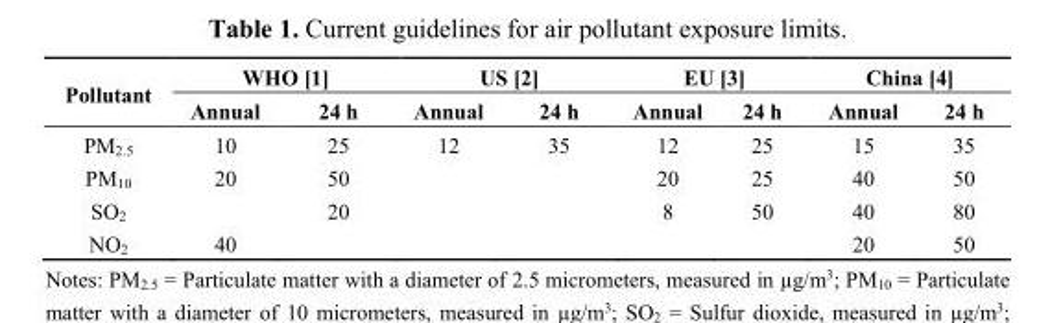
<table><thead><tr><td rowspan="2">Pollutant</td><td colspan="2">WHO [1]</td><td colspan="2">US [2]</td><td colspan="2">EU [3]</td><td colspan="2">China [4]</td></tr><tr><td>Annual</td><td>24 h</td><td>Annual</td><td>24 h</td><td>Annual</td><td>24 h</td><td>Annual</td><td>24 h</td></tr></thead><tbody><tr><td>PM<sub>2.5</sub></td><td>10</td><td>25</td><td>12</td><td>35</td><td>12</td><td>25</td><td>15</td><td>35</td></tr><tr><td>PM<sub>10</sub></td><td>20</td><td>50</td><td></td><td></td><td>20</td><td>25</td><td>40</td><td>50</td></tr><tr><td>SO<sub>2</sub></td><td></td><td>20</td><td></td><td></td><td>8</td><td>50</td><td>40</td><td>80</td></tr><tr><td>NO<sub>2</sub></td><td>40</td><td></td><td></td><td></td><td></td><td></td><td>20</td><td>50</td></tr></tbody></table>